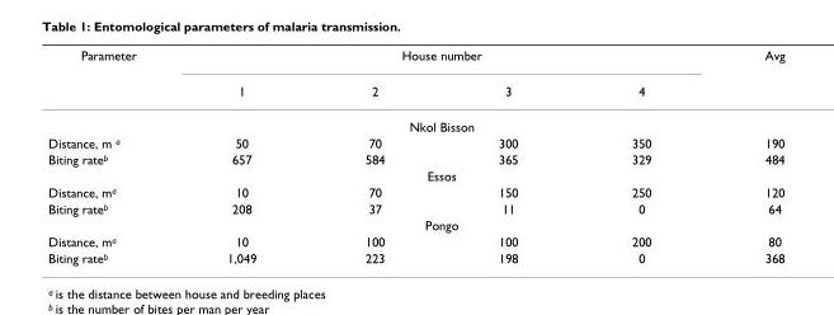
<table><thead><tr><td rowspan="2">Parameter</td><td colspan="4">House number</td><td rowspan="2">Avg</td></tr><tr><td>1</td><td>2</td><td>3</td><td>4</td></tr></thead><tbody><tr><td></td><td colspan="4">Nkol Bisson</td><td></td></tr><tr><td>Distance, m <sup>a</sup></td><td>50</td><td>70</td><td>300</td><td>350</td><td>190</td></tr><tr><td rowspan="2">Biting rate<sup>b</sup></td><td>657</td><td>584</td><td>365</td><td>329</td><td>484</td></tr><tr><td colspan="4">Essos</td><td></td></tr><tr><td>Distance, m<sup>a</sup></td><td>10</td><td>70</td><td>150</td><td>250</td><td>120</td></tr><tr><td rowspan="2">Biting rate<sup>b</sup></td><td>208</td><td>37</td><td>11</td><td>0</td><td>64</td></tr><tr><td colspan="4">Pongo</td><td></td></tr><tr><td>Distance, m<sup>a</sup></td><td>10</td><td>100</td><td>100</td><td>200</td><td>80</td></tr><tr><td>Biting rate<sup>b</sup></td><td>1,049</td><td>223</td><td>198</td><td>0</td><td>368</td></tr></tbody></table>